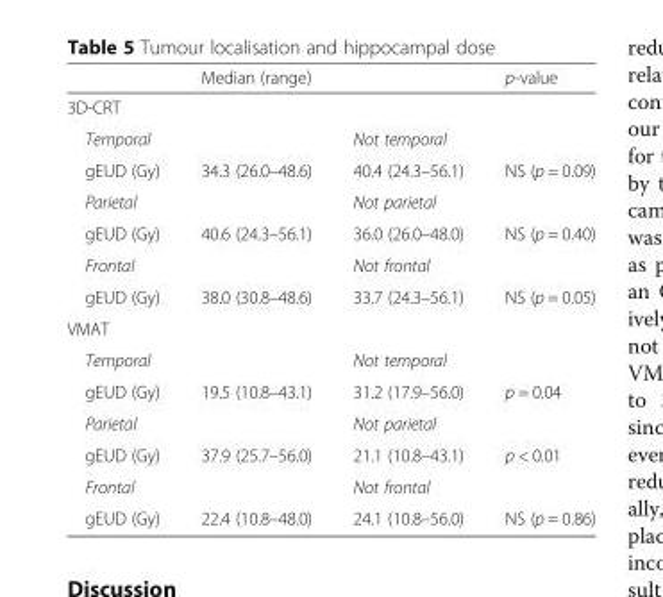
<table><thead><tr><td></td><td colspan="2">Median (range)</td><td>p-value</td></tr><tr><td rowspan="2" colspan="2">3D-CRT Temporal</td><td rowspan="2" colspan="2">Not temporal</td></tr><tr></tr><tr><td>gEUD (Gy)</td><td>34.3 (26.0–48.6)</td><td>40.4 (24.3–56.1)</td><td>NS (p = 0.09)</td></tr></thead><tbody><tr><td colspan="2">Parietal</td><td colspan="2">Not parietal</td></tr><tr><td>gEUD (Gy)</td><td>40.6 (24.3–56.1)</td><td>36.0 (26.0–48.0)</td><td>NS (p = 0.40)</td></tr><tr><td colspan="2">Frontal</td><td colspan="2">Not frontal</td></tr><tr><td>gEUD (Gy)</td><td>38.0 (30.8–48.6)</td><td>33.7 (24.3–56.1)</td><td>NS (p = 0.05)</td></tr><tr><td colspan="4">VMAT</td></tr><tr><td colspan="2">Temporal</td><td colspan="2">Not temporal</td></tr><tr><td>gEUD (Gy)</td><td>19.5 (10.8–43.1)</td><td>31.2 (17.9–56.0)</td><td>p = 0.04</td></tr><tr><td colspan="2">Parietal</td><td colspan="2">Not parietal</td></tr><tr><td>gEUD (Gy)</td><td>37.9 (25.7–56.0)</td><td>21.1 (10.8–43.1)</td><td>p &lt; 0.01</td></tr><tr><td colspan="2">Frontal</td><td colspan="2">Not frontal</td></tr><tr><td>gEUD (Gy)</td><td>22.4 (10.8–48.0)</td><td>24.1 (10.8–56.0)</td><td>NS (p = 0.86)</td></tr></tbody></table>